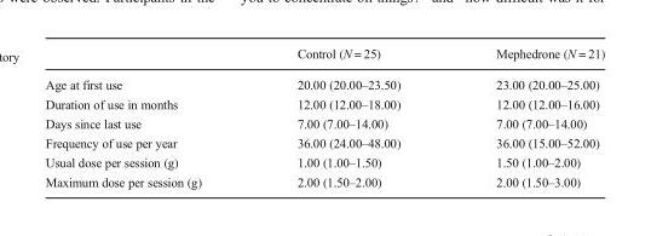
<table><thead><tr><td></td><td>Control (N = 25)</td><td>Mephedrone (N = 21)</td></tr></thead><tbody><tr><td>Age at first use</td><td>20.00 (20.00–23.50)</td><td>23.00 (20.00–25.00)</td></tr><tr><td>Duration of use in months</td><td>12.00 (12.00–18.00)</td><td>12.00 (12.00–16.00)</td></tr><tr><td>Days since last use</td><td>7.00 (7.00–14.00)</td><td>7.00 (7.00–14.00)</td></tr><tr><td>Frequency of use per year</td><td>36.00 (24.00–48.00)</td><td>36.00 (15.00–52.00)</td></tr><tr><td>Usual dose per session (g)</td><td>1.00 (1.00–1.50)</td><td>1.50 (1.00–2.00)</td></tr><tr><td>Maximum dose per session (g)</td><td>2.00 (1.50–2.00)</td><td>2.00 (1.50–3.00)</td></tr></tbody></table>